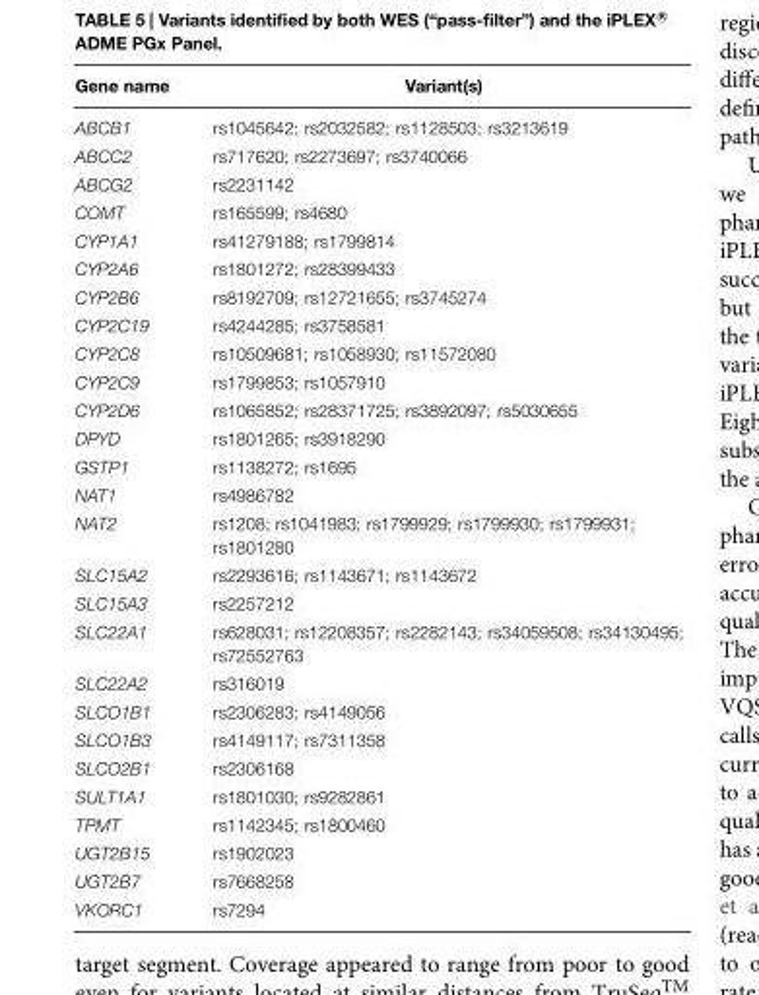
<table><thead><tr><td>Gene name</td><td>Variant(s)</td></tr></thead><tbody><tr><td>ABCB1</td><td>rs1045642; rs2032582; rs1128503; rs3213619</td></tr><tr><td>ABCC2</td><td>rs717620; rs2273697; rs3740066</td></tr><tr><td>ABCG2</td><td>rs2231142</td></tr><tr><td>COMT</td><td>rs165599; rs4680</td></tr><tr><td>CYP1A1</td><td>rs41279188; rs1799814</td></tr><tr><td>CYP2A6</td><td>rs1801272; rs28399433</td></tr><tr><td>CYP2B6</td><td>rs8192709; rs12721655; rs3745274</td></tr><tr><td>CYP2C19</td><td>rs4244285; rs3758581</td></tr><tr><td>CYP2C8</td><td>rs10509681; rs1058930; rs11572080</td></tr><tr><td>CYP2C9</td><td>rs1799853; rs1057910</td></tr><tr><td>CYP2D6</td><td>rs1065852; rs28371725; rs3892097; rs5030655</td></tr><tr><td>DPYD</td><td>rs1801265; rs3918290</td></tr><tr><td>GSTP1</td><td>rs1138272; rs1695</td></tr><tr><td>NAT1</td><td>rs4986782</td></tr><tr><td>NAT2</td><td>rs1208; rs1041983; rs1799929; rs1799930; rs1799931; rs1801280</td></tr><tr><td>SLC15A2</td><td>rs2293616; rs1143671; rs1143672</td></tr><tr><td>SLC15A3</td><td>rs2257212</td></tr><tr><td>SLC22A1</td><td>rs628031; rs12208357; rs2282143; rs34059508; rs34130495; rs72552763</td></tr><tr><td>SLC22A2</td><td>rs316019</td></tr><tr><td>SLCO1B1</td><td>rs2306283; rs4149056</td></tr><tr><td>SLCO1B3</td><td>rs4149117; rs7311358</td></tr><tr><td>SLCO2B1</td><td>rs2306168</td></tr><tr><td>SULT1A1</td><td>rs1801030; rs9282861</td></tr><tr><td>TPMT</td><td>rs1142345; rs1800460</td></tr><tr><td>UGT2B15</td><td>rs1902023</td></tr><tr><td>UGT2B7</td><td>rs7668258</td></tr><tr><td>VKORC1</td><td>rs7294</td></tr></tbody></table>